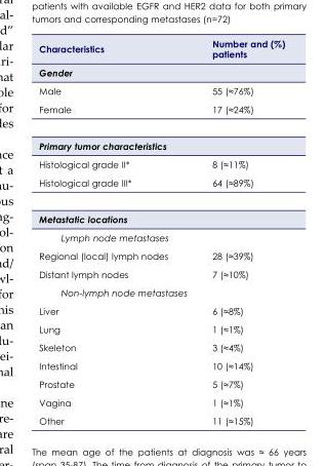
<table><thead><tr><td>Characteristics</td><td>Number and (%) patients</td></tr></thead><tbody><tr><td colspan="2">Gender</td></tr><tr><td>Male</td><td>55 (≈76%)</td></tr><tr><td>Female</td><td>17 (≈24%)</td></tr><tr><td colspan="2">Primary tumor characteristics</td></tr><tr><td>Histological grade II*</td><td>8 (≈11%)</td></tr><tr><td>Histological grade III*</td><td>64 (≈89%)</td></tr><tr><td colspan="2">Metastatic locations</td></tr><tr><td colspan="2">Lymph node metastases</td></tr><tr><td>Regional (local) lymph nodes</td><td>28 (≈39%)</td></tr><tr><td>Distant lymph nodes</td><td>7 (≈10%)</td></tr><tr><td colspan="2">Non-lymph node metastases</td></tr><tr><td>Liver</td><td>6 (≈8%)</td></tr><tr><td>Lung</td><td>1 (≈1%)</td></tr><tr><td>Skeleton</td><td>3 (≈4%)</td></tr><tr><td>Intestinal</td><td>10 (≈14%)</td></tr><tr><td>Prostate</td><td>5 (≈7%)</td></tr><tr><td>Vagina</td><td>1 (≈1%)</td></tr><tr><td>Other</td><td>11 (≈15%)</td></tr></tbody></table>